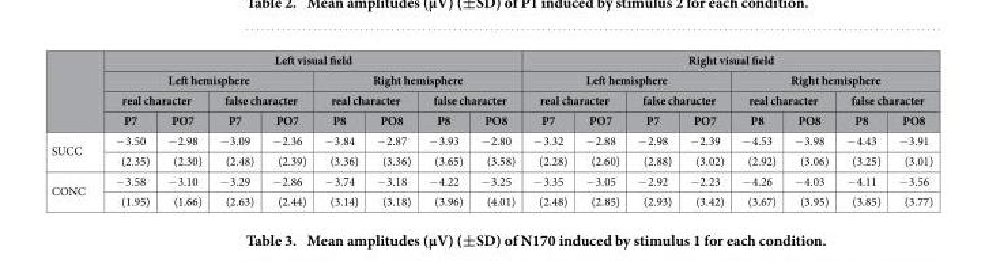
<table><thead><tr><td rowspan="4"></td><td colspan="8">Left visual field</td><td colspan="8">Right visual field</td></tr><tr><td colspan="4">Left hemisphere</td><td colspan="4">Right hemisphere</td><td colspan="4">Left hemisphere</td><td colspan="4">Right hemisphere</td></tr><tr><td colspan="2">real character</td><td colspan="2">false character</td><td colspan="2">real character</td><td colspan="2">false character</td><td colspan="2">real character</td><td colspan="2">false character</td><td colspan="2">real character</td><td colspan="2">false character</td></tr><tr><td>P7</td><td>PO7</td><td>P7</td><td>PO7</td><td>P8</td><td>PO8</td><td>P8</td><td>PO8</td><td>P7</td><td>PO7</td><td>P7</td><td>PO7</td><td>P8</td><td>PO8</td><td>P8</td><td>PO8</td></tr></thead><tbody><tr><td rowspan="2">SUCC</td><td>− 3.50</td><td>− 2.98</td><td>− 3.09</td><td>− 2.36</td><td>− 3.84</td><td>− 2.87</td><td>− 3.93</td><td>− 2.80</td><td>− 3.32</td><td>− 2.88</td><td>− 2.98</td><td>− 2.39</td><td>− 4.53</td><td>− 3.98</td><td>− 4.43</td><td>− 3.91</td></tr><tr><td>(2.35)</td><td>(2.30)</td><td>(2.48)</td><td>(2.39)</td><td>(3.36)</td><td>(3.36)</td><td>(3.65)</td><td>(3.58)</td><td>(2.28)</td><td>(2.60)</td><td>(2.88)</td><td>(3.02)</td><td>(2.92)</td><td>(3.06)</td><td>(3.25)</td><td>(3.01)</td></tr><tr><td rowspan="2">CONC</td><td>− 3.58</td><td>− 3.10</td><td>− 3.29</td><td>− 2.86</td><td>− 3.74</td><td>− 3.18</td><td>− 4.22</td><td>− 3.25</td><td>− 3.35</td><td>− 3.05</td><td>− 2.92</td><td>− 2.23</td><td>− 4.26</td><td>− 4.03</td><td>− 4.11</td><td>− 3.56</td></tr><tr><td>(1.95)</td><td>(1.66)</td><td>(2.63)</td><td>(2.44)</td><td>(3.14)</td><td>(3.18)</td><td>(3.96)</td><td>(4.01)</td><td>(2.48)</td><td>(2.85)</td><td>(2.93)</td><td>(3.42)</td><td>(3.67)</td><td>(3.95)</td><td>(3.85)</td><td>(3.77)</td></tr></tbody></table>